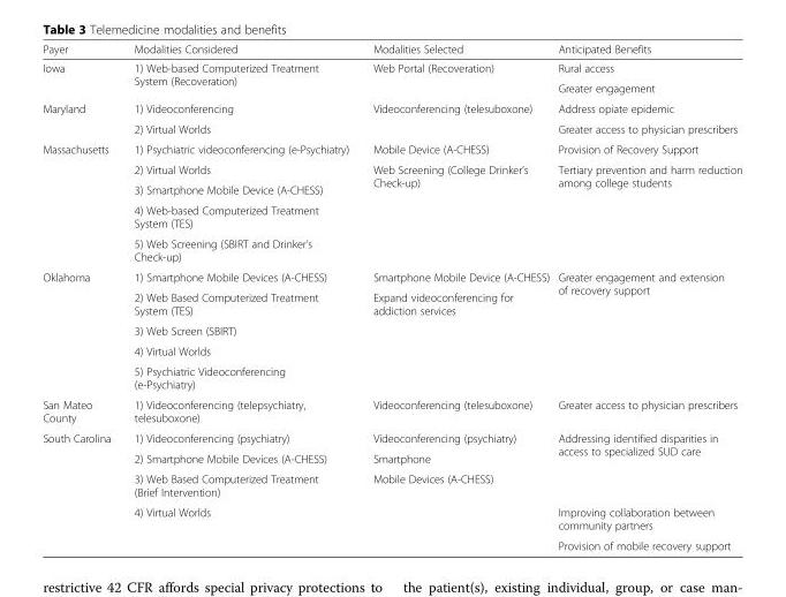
<table><thead><tr><td>Payer</td><td>Modalities Considered</td><td>Modalities Selected</td><td>Anticipated Benefits</td></tr></thead><tbody><tr><td rowspan="2">Iowa</td><td rowspan="2">1) Web-based Computerized Treatment System (Recoveration)</td><td rowspan="2">Web Portal (Recoveration)</td><td>Rural access</td></tr><tr><td>Greater engagement</td></tr><tr><td rowspan="2">Maryland</td><td>1) Videoconferencing</td><td>Videoconferencing (telesuboxone)</td><td>Address opiate epidemic</td></tr><tr><td>2) Virtual Worlds</td><td></td><td>Greater access to physician prescribers</td></tr><tr><td rowspan="5">Massachusetts</td><td>1) Psychiatric videoconferencing (e-Psychiatry)</td><td>Mobile Device (A-CHESS)</td><td>Provision of Recovery Support</td></tr><tr><td>2) Virtual Worlds</td><td rowspan="4">Web Screening (College Drinker’s Check-up)</td><td rowspan="4">Tertiary prevention and harm reduction among college students</td></tr><tr><td>3) Smartphone Mobile Device (A-CHESS)</td></tr><tr><td>4) Web-based Computerized Treatment System (TES)</td></tr><tr><td>5) Web Screening (SBIRT and Drinker’s Check-up)</td></tr><tr><td rowspan="5">Oklahoma</td><td>1) Smartphone Mobile Devices (A-CHESS)</td><td>Smartphone Mobile Device (A-CHESS)</td><td rowspan="5">Greater engagement and extension of recovery support</td></tr><tr><td>2) Web Based Computerized Treatment System (TES)</td><td rowspan="4">Expand videoconferencing for addiction services</td></tr><tr><td>3) Web Screen (SBIRT)</td></tr><tr><td>4) Virtual Worlds</td></tr><tr><td>5) Psychiatric Videoconferencing (e-Psychiatry)</td></tr><tr><td>San Mateo County</td><td>1) Videoconferencing (telepsychiatry, telesuboxone)</td><td>Videoconferencing (telesuboxone)</td><td>Greater access to physician prescribers</td></tr><tr><td rowspan="5">South Carolina</td><td>1) Videoconferencing (psychiatry)</td><td>Videoconferencing (psychiatry)</td><td rowspan="3">Addressing identified disparities in access to specialized SUD care</td></tr><tr><td>2) Smartphone Mobile Devices (A-CHESS)</td><td>Smartphone</td></tr><tr><td>3) Web Based Computerized Treatment (Brief Intervention)</td><td>Mobile Devices (A-CHESS)</td></tr><tr><td rowspan="2">4) Virtual Worlds</td><td rowspan="2"></td><td>Improving collaboration between community partners</td></tr><tr><td>Provision of mobile recovery support</td></tr></tbody></table>